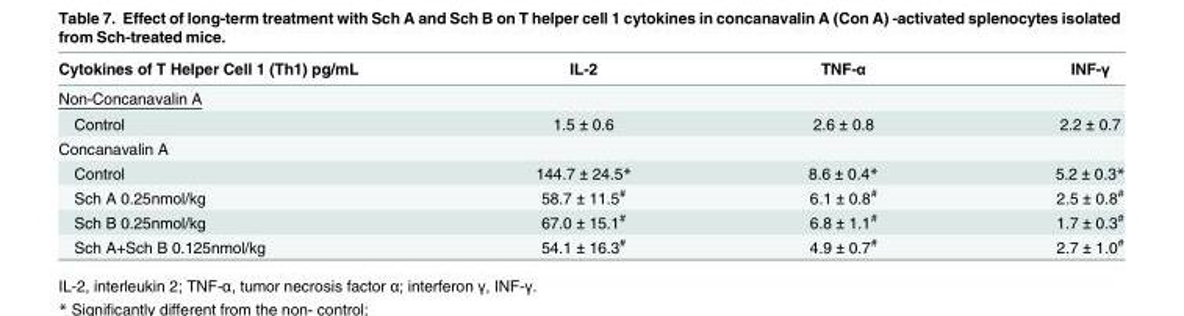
<table><thead><tr><td>Cytokines of T Helper Cell 1 (Th1) pg/mL</td><td>IL-2</td><td>TNF-α</td><td>INF-γ</td></tr></thead><tbody><tr><td colspan="4">Non-Concanavalin A</td></tr><tr><td>Control</td><td>1.5 ± 0.6</td><td>2.6 ± 0.8</td><td>2.2 ± 0.7</td></tr><tr><td colspan="4">Concanavalin A</td></tr><tr><td>Control</td><td>144.7 ± 24.5*</td><td>8.6 ± 0.4*</td><td>5.2 ± 0.3*</td></tr><tr><td>Sch A 0.25nmol/kg</td><td>58.7 ± 11.5<sup>#</sup></td><td>6.1 ± 0.8<sup>#</sup></td><td>2.5 ± 0.8<sup>#</sup></td></tr><tr><td>Sch B 0.25nmol/kg</td><td>67.0 ± 15.1<sup>#</sup></td><td>6.8 ± 1.1<sup>#</sup></td><td>1.7 ± 0.3<sup>#</sup></td></tr><tr><td>Sch A+Sch B 0.125nmol/kg</td><td>54.1 ± 16.3<sup>#</sup></td><td>4.9 ± 0.7<sup>#</sup></td><td>2.7 ± 1.0<sup>#</sup></td></tr></tbody></table>